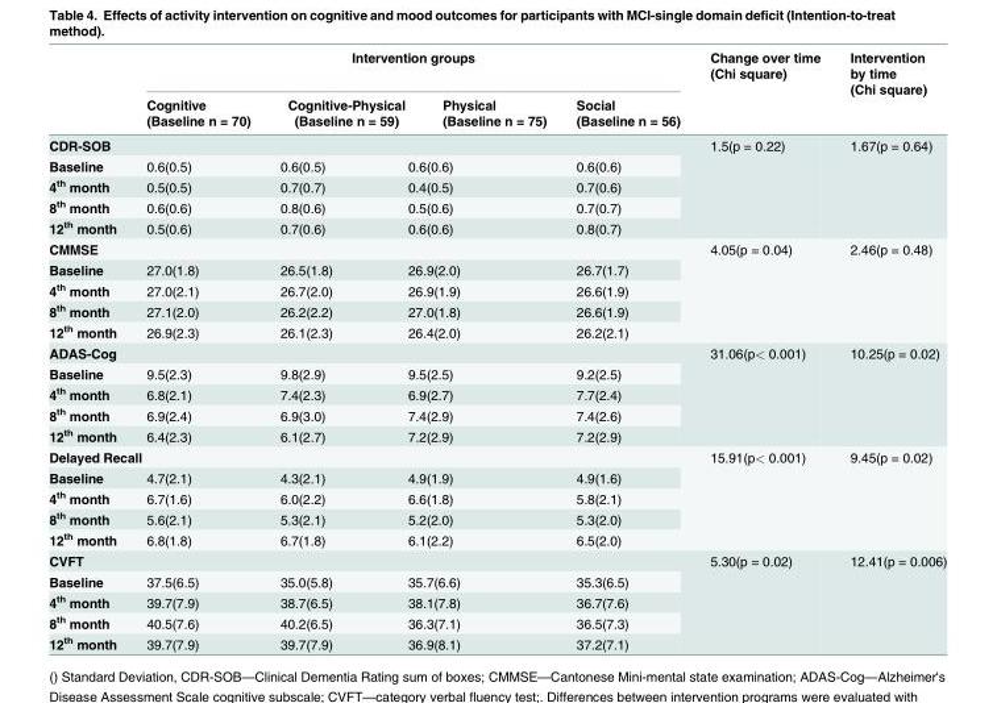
<table><thead><tr><td rowspan="2"></td><td colspan="4">Intervention groups</td><td rowspan="2">Change over time (Chi square)</td><td rowspan="2">Intervention by time (Chi square)</td></tr><tr><td>Cognitive (Baseline n = 70)</td><td>Cognitive-Physical (Baseline n = 59)</td><td>Physical (Baseline n = 75)</td><td>Social (Baseline n = 56)</td></tr></thead><tbody><tr><td colspan="5">CDR-SOB</td><td rowspan="5">1.5(p = 0.22)</td><td rowspan="5">1.67(p = 0.64)</td></tr><tr><td>Baseline</td><td>0.6(0.5)</td><td>0.6(0.5)</td><td>0.6(0.6)</td><td>0.6(0.6)</td></tr><tr><td>4<sup>th</sup> month</td><td>0.5(0.5)</td><td>0.7(0.7)</td><td>0.4(0.5)</td><td>0.7(0.6)</td></tr><tr><td>8<sup>th</sup> month</td><td>0.6(0.6)</td><td>0.8(0.6)</td><td>0.5(0.6)</td><td>0.7(0.7)</td></tr><tr><td>12<sup>th</sup> month</td><td>0.5(0.6)</td><td>0.7(0.6)</td><td>0.6(0.6)</td><td>0.8(0.7)</td></tr><tr><td colspan="5">CMMSE</td><td rowspan="5">4.05(p = 0.04)</td><td rowspan="5">2.46(p = 0.48)</td></tr><tr><td>Baseline</td><td>27.0(1.8)</td><td>26.5(1.8)</td><td>26.9(2.0)</td><td>26.7(1.7)</td></tr><tr><td>4<sup>th</sup> month</td><td>27.0(2.1)</td><td>26.7(2.0)</td><td>26.9(1.9)</td><td>26.6(1.9)</td></tr><tr><td>8<sup>th</sup> month</td><td>27.1(2.0)</td><td>26.2(2.2)</td><td>27.0(1.8)</td><td>26.6(1.9)</td></tr><tr><td>12<sup>th</sup> month</td><td>26.9(2.3)</td><td>26.1(2.3)</td><td>26.4(2.0)</td><td>26.2(2.1)</td></tr><tr><td colspan="5">ADAS-Cog</td><td rowspan="5">31.06(p&lt; 0.001)</td><td rowspan="5">10.25(p = 0.02)</td></tr><tr><td>Baseline</td><td>9.5(2.3)</td><td>9.8(2.9)</td><td>9.5(2.5)</td><td>9.2(2.5)</td></tr><tr><td>4<sup>th</sup> month</td><td>6.8(2.1)</td><td>7.4(2.3)</td><td>6.9(2.7)</td><td>7.7(2.4)</td></tr><tr><td>8<sup>th</sup> month</td><td>6.9(2.4)</td><td>6.9(3.0)</td><td>7.4(2.9)</td><td>7.4(2.6)</td></tr><tr><td>12<sup>th</sup> month</td><td>6.4(2.3)</td><td>6.1(2.7)</td><td>7.2(2.9)</td><td>7.2(2.9)</td></tr><tr><td colspan="5">Delayed Recall</td><td rowspan="5">15.91(p&lt; 0.001)</td><td rowspan="5">9.45(p = 0.02)</td></tr><tr><td>Baseline</td><td>4.7(2.1)</td><td>4.3(2.1)</td><td>4.9(1.9)</td><td>4.9(1.6)</td></tr><tr><td>4<sup>th</sup> month</td><td>6.7(1.6)</td><td>6.0(2.2)</td><td>6.6(1.8)</td><td>5.8(2.1)</td></tr><tr><td>8<sup>th</sup> month</td><td>5.6(2.1)</td><td>5.3(2.1)</td><td>5.2(2.0)</td><td>5.3(2.0)</td></tr><tr><td>12<sup>th</sup> month</td><td>6.8(1.8)</td><td>6.7(1.8)</td><td>6.1(2.2)</td><td>6.5(2.0)</td></tr><tr><td colspan="5">CVFT</td><td rowspan="5">5.30(p = 0.02)</td><td rowspan="5">12.41(p = 0.006)</td></tr><tr><td>Baseline</td><td>37.5(6.5)</td><td>35.0(5.8)</td><td>35.7(6.6)</td><td>35.3(6.5)</td></tr><tr><td>4<sup>th</sup> month</td><td>39.7(7.9)</td><td>38.7(6.5)</td><td>38.1(7.8)</td><td>36.7(7.6)</td></tr><tr><td>8<sup>th</sup> month</td><td>40.5(7.6)</td><td>40.2(6.5)</td><td>36.3(7.1)</td><td>36.5(7.3)</td></tr><tr><td>12<sup>th</sup> month</td><td>39.7(7.9)</td><td>39.7(7.9)</td><td>36.9(8.1)</td><td>37.2(7.1)</td></tr></tbody></table>